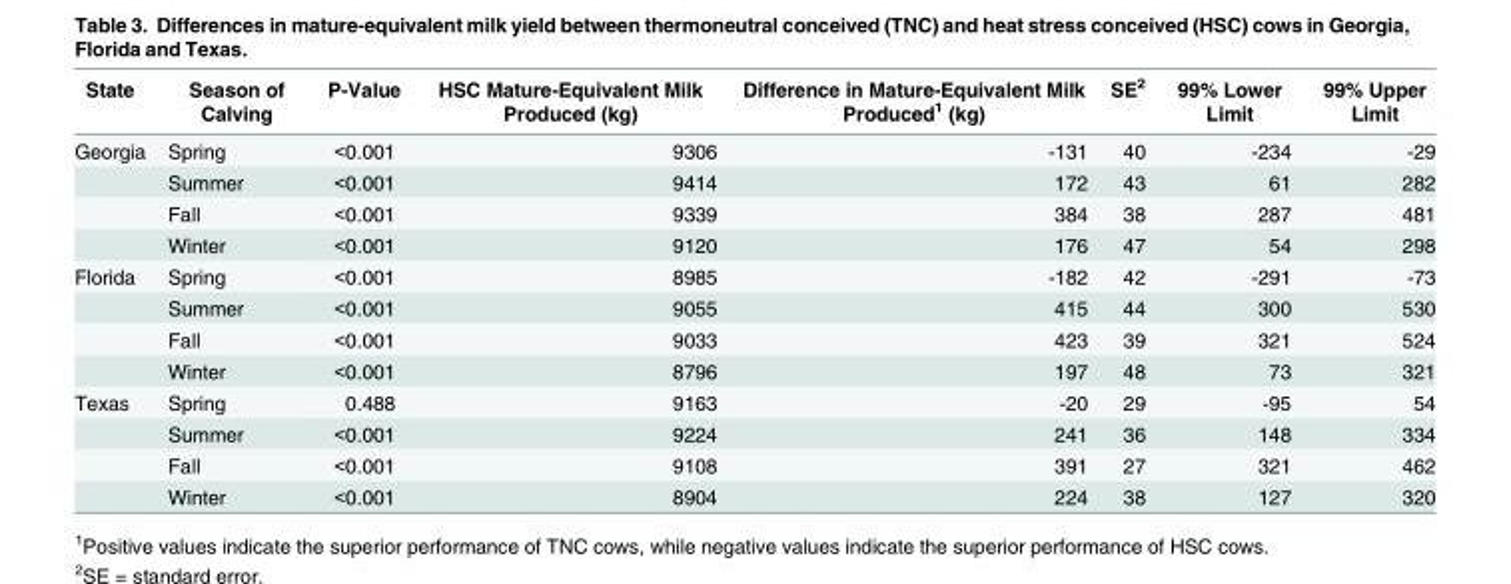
<table><thead><tr><td>State</td><td>Season of Calving</td><td>P-Value</td><td>HSC Mature-Equivalent Milk Produced (kg)</td><td>Difference in Mature-Equivalent Milk Produced<sup>1</sup> (kg)</td><td>SE<sup>2</sup></td><td>99% Lower Limit</td><td>99% Upper Limit</td></tr></thead><tbody><tr><td rowspan="4">Georgia</td><td>Spring</td><td>&lt;0.001</td><td>9306</td><td>-131</td><td>40</td><td>-234</td><td>-29</td></tr><tr><td>Summer</td><td>&lt;0.001</td><td>9414</td><td>172</td><td>43</td><td>61</td><td>282</td></tr><tr><td>Fall</td><td>&lt;0.001</td><td>9339</td><td>384</td><td>38</td><td>287</td><td>481</td></tr><tr><td>Winter</td><td>&lt;0.001</td><td>9120</td><td>176</td><td>47</td><td>54</td><td>298</td></tr><tr><td rowspan="4">Florida</td><td>Spring</td><td>&lt;0.001</td><td>8985</td><td>-182</td><td>42</td><td>-291</td><td>-73</td></tr><tr><td>Summer</td><td>&lt;0.001</td><td>9055</td><td>415</td><td>44</td><td>300</td><td>530</td></tr><tr><td>Fall</td><td>&lt;0.001</td><td>9033</td><td>423</td><td>39</td><td>321</td><td>524</td></tr><tr><td>Winter</td><td>&lt;0.001</td><td>8796</td><td>197</td><td>48</td><td>73</td><td>321</td></tr><tr><td rowspan="4">Texas</td><td>Spring</td><td>0.488</td><td>9163</td><td>-20</td><td>29</td><td>-95</td><td>54</td></tr><tr><td>Summer</td><td>&lt;0.001</td><td>9224</td><td>241</td><td>36</td><td>148</td><td>334</td></tr><tr><td>Fall</td><td>&lt;0.001</td><td>9108</td><td>391</td><td>27</td><td>321</td><td>462</td></tr><tr><td>Winter</td><td>&lt;0.001</td><td>8904</td><td>224</td><td>38</td><td>127</td><td>320</td></tr></tbody></table>